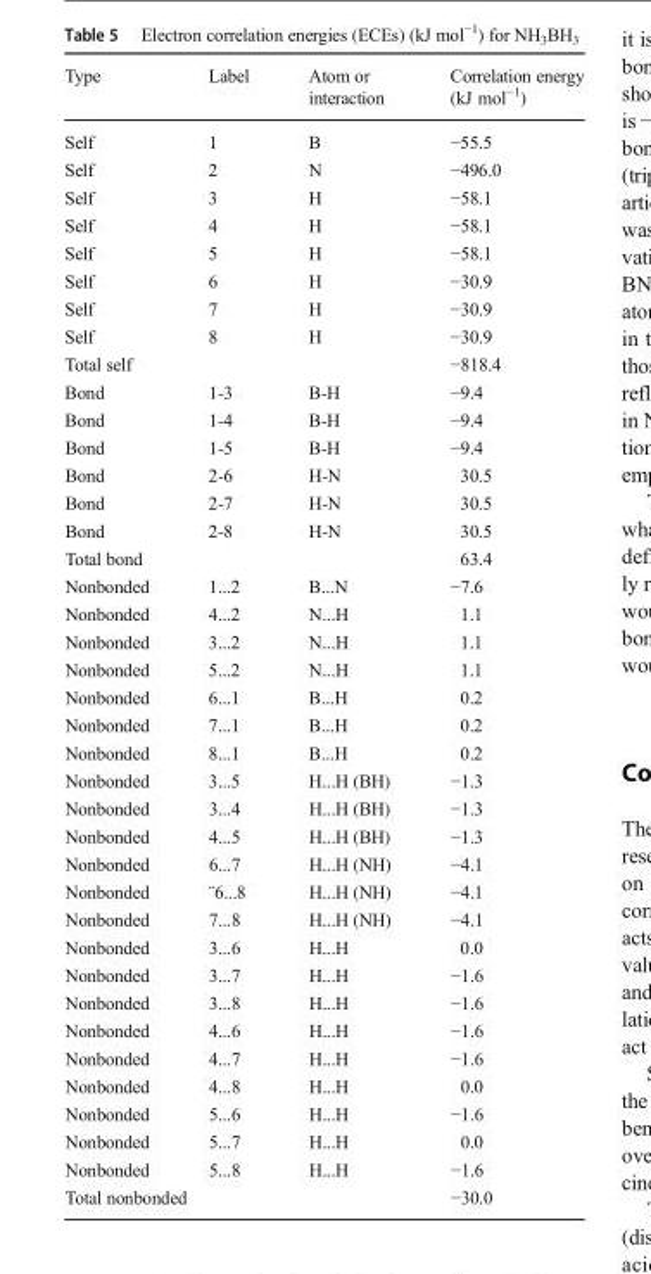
<table><thead><tr><td>Type</td><td>Label</td><td>Atom or interaction</td><td>Correlation energy (kJ mol<sup>−1</sup>)</td></tr></thead><tbody><tr><td>Self</td><td>1</td><td>B</td><td>−55.5</td></tr><tr><td>Self</td><td>2</td><td>N</td><td>−496.0</td></tr><tr><td>Self</td><td>3</td><td>H</td><td>−58.1</td></tr><tr><td>Self</td><td>4</td><td>H</td><td>−58.1</td></tr><tr><td>Self</td><td>5</td><td>H</td><td>−58.1</td></tr><tr><td>Self</td><td>6</td><td>H</td><td>−30.9</td></tr><tr><td>Self</td><td>7</td><td>H</td><td>−30.9</td></tr><tr><td>Self</td><td>8</td><td>H</td><td>−30.9</td></tr><tr><td colspan="3">Total self</td><td>−818.4</td></tr><tr><td>Bond</td><td>1-3</td><td>B-H</td><td>−9.4</td></tr><tr><td>Bond</td><td>1-4</td><td>B-H</td><td>−9.4</td></tr><tr><td>Bond</td><td>1-5</td><td>B-H</td><td>−9.4</td></tr><tr><td>Bond</td><td>2-6</td><td>H-N</td><td>30.5</td></tr><tr><td>Bond</td><td>2-7</td><td>H-N</td><td>30.5</td></tr><tr><td>Bond</td><td>2-8</td><td>H-N</td><td>30.5</td></tr><tr><td colspan="3">Total bond</td><td>63.4</td></tr><tr><td>Nonbonded</td><td>1...2</td><td>B...N</td><td>−7.6</td></tr><tr><td>Nonbonded</td><td>4...2</td><td>N...H</td><td>1.1</td></tr><tr><td>Nonbonded</td><td>3...2</td><td>N...H</td><td>1.1</td></tr><tr><td>Nonbonded</td><td>5...2</td><td>N...H</td><td>1.1</td></tr><tr><td>Nonbonded</td><td>6...1</td><td>B...H</td><td>0.2</td></tr><tr><td>Nonbonded</td><td>7...1</td><td>B...H</td><td>0.2</td></tr><tr><td>Nonbonded</td><td>8...1</td><td>B...H</td><td>0.2</td></tr><tr><td>Nonbonded</td><td>3...5</td><td>H...H (BH)</td><td>−1.3</td></tr><tr><td>Nonbonded</td><td>3...4</td><td>H...H (BH)</td><td>−1.3</td></tr><tr><td>Nonbonded</td><td>4...5</td><td>H...H (BH)</td><td>−1.3</td></tr><tr><td>Nonbonded</td><td>6...7</td><td>H...H (NH)</td><td>−4.1</td></tr><tr><td>Nonbonded</td><td>¨6...8</td><td>H...H (NH)</td><td>−4.1</td></tr><tr><td>Nonbonded</td><td>7...8</td><td>H...H (NH)</td><td>−4.1</td></tr><tr><td>Nonbonded</td><td>3...6</td><td>H...H</td><td>0.0</td></tr><tr><td>Nonbonded</td><td>3...7</td><td>H...H</td><td>−1.6</td></tr><tr><td>Nonbonded</td><td>3...8</td><td>H...H</td><td>−1.6</td></tr><tr><td>Nonbonded</td><td>4...6</td><td>H...H</td><td>−1.6</td></tr><tr><td>Nonbonded</td><td>4...7</td><td>H...H</td><td>−1.6</td></tr><tr><td>Nonbonded</td><td>4...8</td><td>H...H</td><td>0.0</td></tr><tr><td>Nonbonded</td><td>5...6</td><td>H...H</td><td>−1.6</td></tr><tr><td>Nonbonded</td><td>5...7</td><td>H...H</td><td>0.0</td></tr><tr><td>Nonbonded</td><td>5...8</td><td>H...H</td><td>−1.6</td></tr><tr><td colspan="3">Total nonbonded</td><td>−30.0</td></tr></tbody></table>